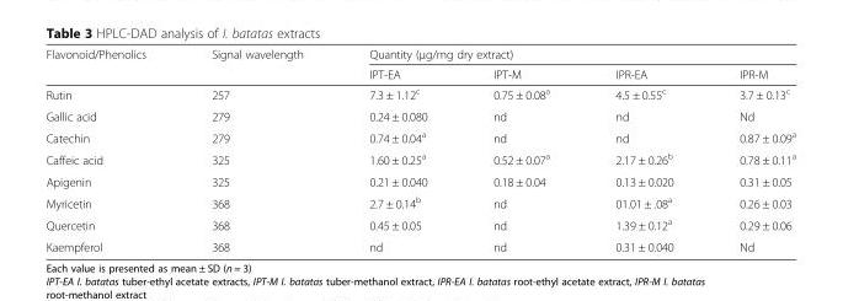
<table><thead><tr><td rowspan="2">Flavonoid/Phenolics</td><td rowspan="2">Signal wavelength</td><td colspan="4">Quantity (μg/mg dry extract)</td></tr><tr><td>IPT-EA</td><td>IPT-M</td><td>IPR-EA</td><td>IPR-M</td></tr></thead><tbody><tr><td>Rutin</td><td>257</td><td>7.3 ± 1.12<sup>c</sup></td><td>0.75 ± 0.08<sup>a</sup></td><td>4.5 ± 0.55<sup>c</sup></td><td>3.7 ± 0.13<sup>c</sup></td></tr><tr><td>Gallic acid</td><td>279</td><td>0.24 ± 0.080</td><td>nd</td><td>nd</td><td>Nd</td></tr><tr><td>Catechin</td><td>279</td><td>0.74 ± 0.04<sup>a</sup></td><td>nd</td><td>nd</td><td>0.87 ± 0.09<sup>a</sup></td></tr><tr><td>Caffeic acid</td><td>325</td><td>1.60 ± 0.25<sup>a</sup></td><td>0.52 ± 0.07<sup>a</sup></td><td>2.17 ± 0.26<sup>b</sup></td><td>0.78 ± 0.11<sup>a</sup></td></tr><tr><td>Apigenin</td><td>325</td><td>0.21 ± 0.040</td><td>0.18 ± 0.04</td><td>0.13 ± 0.020</td><td>0.31 ± 0.05</td></tr><tr><td>Myricetin</td><td>368</td><td>2.7 ± 0.14<sup>b</sup></td><td>nd</td><td>01.01 ± .08<sup>a</sup></td><td>0.26 ± 0.03</td></tr><tr><td>Quercetin</td><td>368</td><td>0.45 ± 0.05</td><td>nd</td><td>1.39 ± 0.12<sup>a</sup></td><td>0.29 ± 0.06</td></tr><tr><td>Kaempferol</td><td>368</td><td>nd</td><td>nd</td><td>0.31 ± 0.040</td><td>Nd</td></tr></tbody></table>